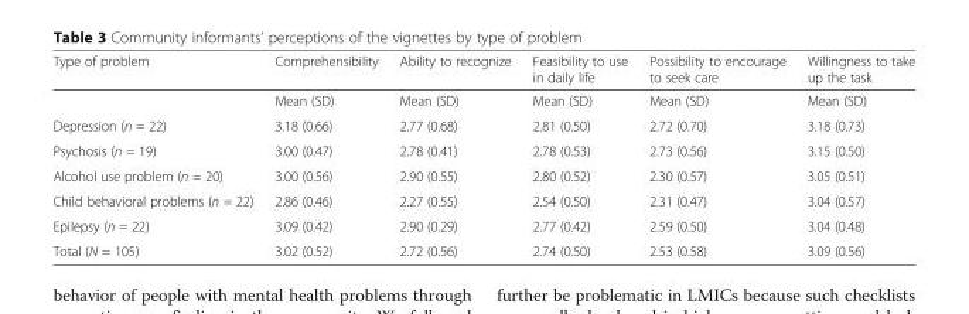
<table><thead><tr><td>Type of problem</td><td>Comprehensibility</td><td>Ability to recognize</td><td>Feasibility to use in daily life</td><td>Possibility to encourage to seek care</td><td>Willingness to take up the task</td></tr></thead><tbody><tr><td></td><td>Mean (SD)</td><td>Mean (SD)</td><td>Mean (SD)</td><td>Mean (SD)</td><td>Mean (SD)</td></tr><tr><td>Depression (n = 22)</td><td>3.18 (0.66)</td><td>2.77 (0.68)</td><td>2.81 (0.50)</td><td>2.72 (0.70)</td><td>3.18 (0.73)</td></tr><tr><td>Psychosis (n = 19)</td><td>3.00 (0.47)</td><td>2.78 (0.41)</td><td>2.78 (0.53)</td><td>2.73 (0.56)</td><td>3.15 (0.50)</td></tr><tr><td>Alcohol use problem (n = 20)</td><td>3.00 (0.56)</td><td>2.90 (0.55)</td><td>2.80 (0.52)</td><td>2.30 (0.57)</td><td>3.05 (0.51)</td></tr><tr><td>Child behavioral problems (n = 22)</td><td>2.86 (0.46)</td><td>2.27 (0.55)</td><td>2.54 (0.50)</td><td>2.31 (0.47)</td><td>3.04 (0.57)</td></tr><tr><td>Epilepsy (n = 22)</td><td>3.09 (0.42)</td><td>2.90 (0.29)</td><td>2.77 (0.42)</td><td>2.59 (0.50)</td><td>3.04 (0.48)</td></tr><tr><td>Total (N = 105)</td><td>3.02 (0.52)</td><td>2.72 (0.56)</td><td>2.74 (0.50)</td><td>2.53 (0.58)</td><td>3.09 (0.56)</td></tr></tbody></table>